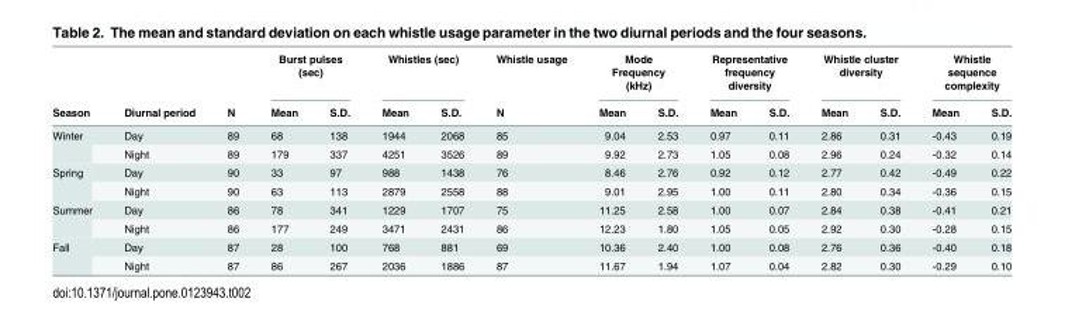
<table><thead><tr><td rowspan="2">Season</td><td rowspan="2">Diurnal period</td><td rowspan="2">N</td><td colspan="2">Burst pulses (sec)</td><td colspan="2">Whistles (sec)</td><td rowspan="2">Whistle usage N</td><td colspan="2">Mode Frequency (kHz)</td><td colspan="2">Representative frequency diversity</td><td colspan="2">Whistle cluster diversity</td><td colspan="2">Whistle sequence complexity</td></tr><tr><td>Mean</td><td>S.D.</td><td>Mean</td><td>S.D.</td><td>Mean</td><td>S.D.</td><td>Mean</td><td>S.D.</td><td>Mean</td><td>S.D.</td><td>Mean</td><td>S.D.</td></tr></thead><tbody><tr><td rowspan="2">Winter</td><td>Day</td><td>89</td><td>68</td><td>138</td><td>1944</td><td>2068</td><td>85</td><td>9.04</td><td>2.53</td><td>0.97</td><td>0.11</td><td>2.86</td><td>0.31</td><td>-0.43</td><td>0.19</td></tr><tr><td>Night</td><td>89</td><td>179</td><td>337</td><td>4251</td><td>3526</td><td>89</td><td>9.92</td><td>2.73</td><td>1.05</td><td>0.08</td><td>2.96</td><td>0.24</td><td>-0.32</td><td>0.14</td></tr><tr><td rowspan="2">Spring</td><td>Day</td><td>90</td><td>33</td><td>97</td><td>988</td><td>1438</td><td>76</td><td>8.46</td><td>2.76</td><td>0.92</td><td>0.12</td><td>2.77</td><td>0.42</td><td>-0.49</td><td>0.22</td></tr><tr><td>Night</td><td>90</td><td>63</td><td>113</td><td>2879</td><td>2558</td><td>88</td><td>9.01</td><td>2.95</td><td>1.00</td><td>0.11</td><td>2.80</td><td>0.34</td><td>-0.36</td><td>0.15</td></tr><tr><td rowspan="2">Summer</td><td>Day</td><td>86</td><td>78</td><td>341</td><td>1229</td><td>1707</td><td>75</td><td>11.25</td><td>2.58</td><td>1.00</td><td>0.07</td><td>2.84</td><td>0.38</td><td>-0.41</td><td>0.21</td></tr><tr><td>Night</td><td>86</td><td>177</td><td>249</td><td>3471</td><td>2431</td><td>86</td><td>12.23</td><td>1.80</td><td>1.05</td><td>0.05</td><td>2.92</td><td>0.30</td><td>-0.28</td><td>0.15</td></tr><tr><td rowspan="2">Fall</td><td>Day</td><td>87</td><td>28</td><td>100</td><td>768</td><td>881</td><td>69</td><td>10.36</td><td>2.40</td><td>1.00</td><td>0.08</td><td>2.76</td><td>0.36</td><td>-0.40</td><td>0.18</td></tr><tr><td>Night</td><td>87</td><td>86</td><td>267</td><td>2036</td><td>1886</td><td>87</td><td>11.67</td><td>1.94</td><td>1.07</td><td>0.04</td><td>2.82</td><td>0.30</td><td>-0.29</td><td>0.10</td></tr></tbody></table>